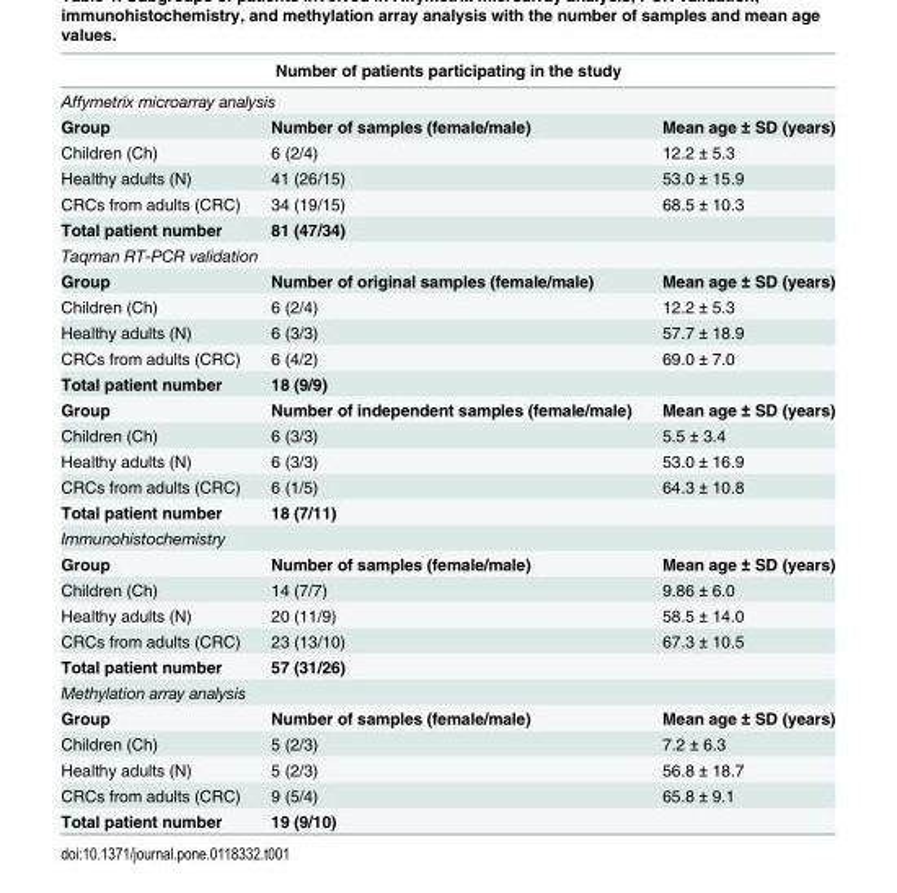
<table><thead><tr><td rowspan="2" colspan="3">Number of patients participating in the study Affymetrix microarray analysis</td></tr><tr></tr><tr><td>Group</td><td>Number of samples (female/male)</td><td>Mean age ± SD (years)</td></tr></thead><tbody><tr><td>Children (Ch)</td><td>6 (2/4)</td><td>12.2 ± 5.3</td></tr><tr><td>Healthy adults (N)</td><td>41 (26/15)</td><td>53.0 ± 15.9</td></tr><tr><td>CRCs from adults (CRC)</td><td>34 (19/15)</td><td>68.5 ± 10.3</td></tr><tr><td>Total patient number</td><td>81 (47/34)</td><td></td></tr><tr><td colspan="3">Taqman RT-PCR validation</td></tr><tr><td>Group</td><td>Number of original samples (female/male)</td><td>Mean age ± SD (years)</td></tr><tr><td>Children (Ch)</td><td>6 (2/4)</td><td>12.2 ± 5.3</td></tr><tr><td>Healthy adults (N)</td><td>6 (3/3)</td><td>57.7 ± 18.9</td></tr><tr><td>CRCs from adults (CRC)</td><td>6 (4/2)</td><td>69.0 ± 7.0</td></tr><tr><td>Total patient number</td><td>18 (9/9)</td><td></td></tr><tr><td>Group</td><td>Number of independent samples (female/male)</td><td>Mean age ± SD (years)</td></tr><tr><td>Children (Ch)</td><td>6 (3/3)</td><td>5.5 ± 3.4</td></tr><tr><td>Healthy adults (N)</td><td>6 (3/3)</td><td>53.0 ± 16.9</td></tr><tr><td>CRCs from adults (CRC)</td><td>6 (1/5)</td><td>64.3 ± 10.8</td></tr><tr><td>Total patient number</td><td>18 (7/11)</td><td></td></tr><tr><td colspan="3">Immunohistochemistry</td></tr><tr><td>Group</td><td>Number of samples (female/male)</td><td>Mean age ± SD (years)</td></tr><tr><td>Children (Ch)</td><td>14 (7/7)</td><td>9.86 ± 6.0</td></tr><tr><td>Healthy adults (N)</td><td>20 (11/9)</td><td>58.5 ± 14.0</td></tr><tr><td>CRCs from adults (CRC)</td><td>23 (13/10)</td><td>67.3 ± 10.5</td></tr><tr><td>Total patient number</td><td>57 (31/26)</td><td></td></tr><tr><td colspan="3">Methylation array analysis</td></tr><tr><td>Group</td><td>Number of samples (female/male)</td><td>Mean age ± SD (years)</td></tr><tr><td>Children (Ch)</td><td>5 (2/3)</td><td>7.2 ± 6.3</td></tr><tr><td>Healthy adults (N)</td><td>5 (2/3)</td><td>56.8 ± 18.7</td></tr><tr><td>CRCs from adults (CRC)</td><td>9 (5/4)</td><td>65.8 ± 9.1</td></tr><tr><td>Total patient number</td><td>19 (9/10)</td><td></td></tr></tbody></table>